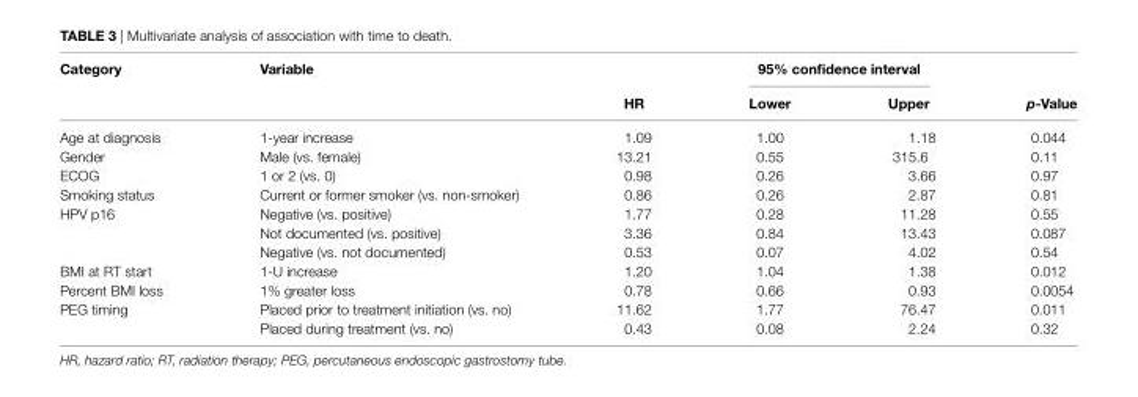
<table><thead><tr><td rowspan="2">category</td><td rowspan="2">Variable</td><td rowspan="2">hr</td><td colspan="2">95% confidence interval</td><td rowspan="2">p-Value</td></tr><tr><td>lower</td><td>Upper</td></tr></thead><tbody><tr><td>Age at diagnosis</td><td>1-year increase</td><td>1.09</td><td>1.00</td><td>1.18</td><td>0.044</td></tr><tr><td>Gender</td><td>Male (vs. female)</td><td>13.21</td><td>0.55</td><td>315.6</td><td>0.11</td></tr><tr><td>ECOG</td><td>1 or 2 (vs. 0)</td><td>0.98</td><td>0.26</td><td>3.66</td><td>0.97</td></tr><tr><td>Smoking status</td><td>Current or former smoker (vs. non-smoker)</td><td>0.86</td><td>0.26</td><td>2.87</td><td>0.81</td></tr><tr><td rowspan="3">HPV p16</td><td>Negative (vs. positive)</td><td>1.77</td><td>0.28</td><td>11.28</td><td>0.55</td></tr><tr><td>Not documented (vs. positive)</td><td>3.36</td><td>0.84</td><td>13.43</td><td>0.087</td></tr><tr><td>Negative (vs. not documented)</td><td>0.53</td><td>0.07</td><td>4.02</td><td>0.54</td></tr><tr><td>BMI at RT start</td><td>1-U increase</td><td>1.20</td><td>1.04</td><td>1.38</td><td>0.012</td></tr><tr><td>Percent BMI loss</td><td>1% greater loss</td><td>0.78</td><td>0.66</td><td>0.93</td><td>0.0054</td></tr><tr><td rowspan="2">PEG timing</td><td>Placed prior to treatment initiation (vs. no)</td><td>11.62</td><td>1.77</td><td>76.47</td><td>0.011</td></tr><tr><td>Placed during treatment (vs. no)</td><td>0.43</td><td>0.08</td><td>2.24</td><td>0.32</td></tr></tbody></table>